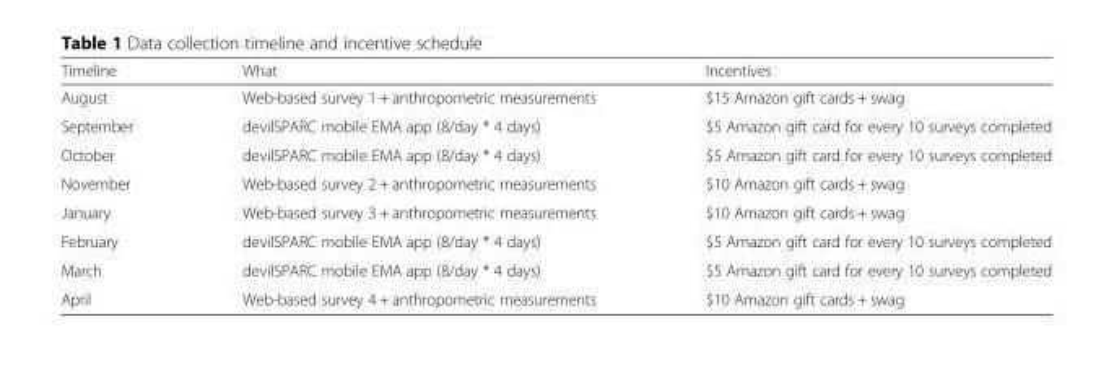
<table><thead><tr><td>Timeline</td><td>What</td><td>Incentives</td></tr></thead><tbody><tr><td>August</td><td>Web-based survey 1 + anthropometric measurements</td><td>$15 Amazon gift cards + swag</td></tr><tr><td>September</td><td>devilSPARC mobile EMA app (8/day * 4 days)</td><td>$5 Amazon gift card for every 10 surveys completed</td></tr><tr><td>October</td><td>devilSPARC mobile EMA app (8/day * 4 days)</td><td>$5 Amazon gift card for every 10 surveys completed</td></tr><tr><td>November</td><td>Web-based survey 2 + anthropometric measurements</td><td>$10 Amazon gift cards + swag</td></tr><tr><td>January</td><td>Web-based survey 3 + anthropometric measurements</td><td>$10 Amazon gift cards + swag</td></tr><tr><td>February</td><td>devilSPARC mobile EMA app (8/day * 4 days)</td><td>$5 Amazon gift card for every 10 surveys completed</td></tr><tr><td>March</td><td>devilSPARC mobile EMA app (8/day * 4 days)</td><td>$5 Amazon gift card for every 10 surveys completed</td></tr><tr><td>April</td><td>Web-based survey 4 + anthropometric measurements</td><td>$10 Amazon gift cards + swag</td></tr></tbody></table>